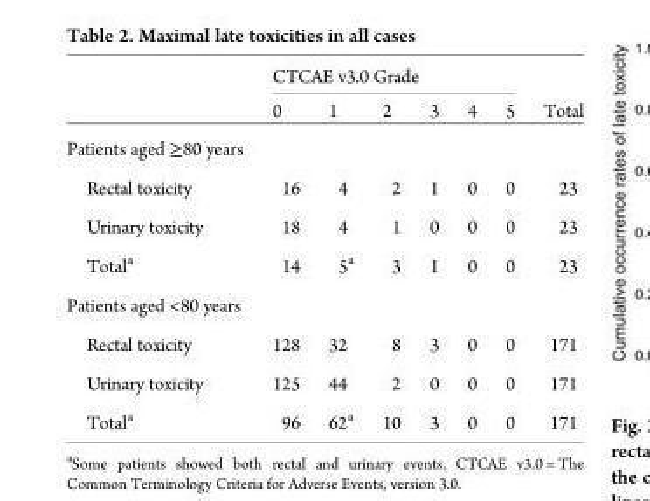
<table><thead><tr><td rowspan="2"></td><td colspan="6">CTCAE v3.0 Grade</td><td rowspan="2">Total</td></tr><tr><td>0</td><td>1</td><td>2</td><td>3</td><td>4</td><td>5</td></tr></thead><tbody><tr><td colspan="8">Patients aged ≥80 years</td></tr><tr><td>Rectal toxicity</td><td>16</td><td>4</td><td>2</td><td>1</td><td>0</td><td>0</td><td>23</td></tr><tr><td>Urinary toxicity</td><td>18</td><td>4</td><td>1</td><td>0</td><td>0</td><td>0</td><td>23</td></tr><tr><td>Total<sup>a</sup></td><td>14</td><td>5<sup>a</sup></td><td>3</td><td>1</td><td>0</td><td>0</td><td>23</td></tr><tr><td colspan="8">Patients aged &lt;80 years</td></tr><tr><td>Rectal toxicity</td><td>128</td><td>32</td><td>8</td><td>3</td><td>0</td><td>0</td><td>171</td></tr><tr><td>Urinary toxicity</td><td>125</td><td>44</td><td>2</td><td>0</td><td>0</td><td>0</td><td>171</td></tr><tr><td>Total<sup>a</sup></td><td>96</td><td>62<sup>a</sup></td><td>10</td><td>3</td><td>0</td><td>0</td><td>171</td></tr></tbody></table>